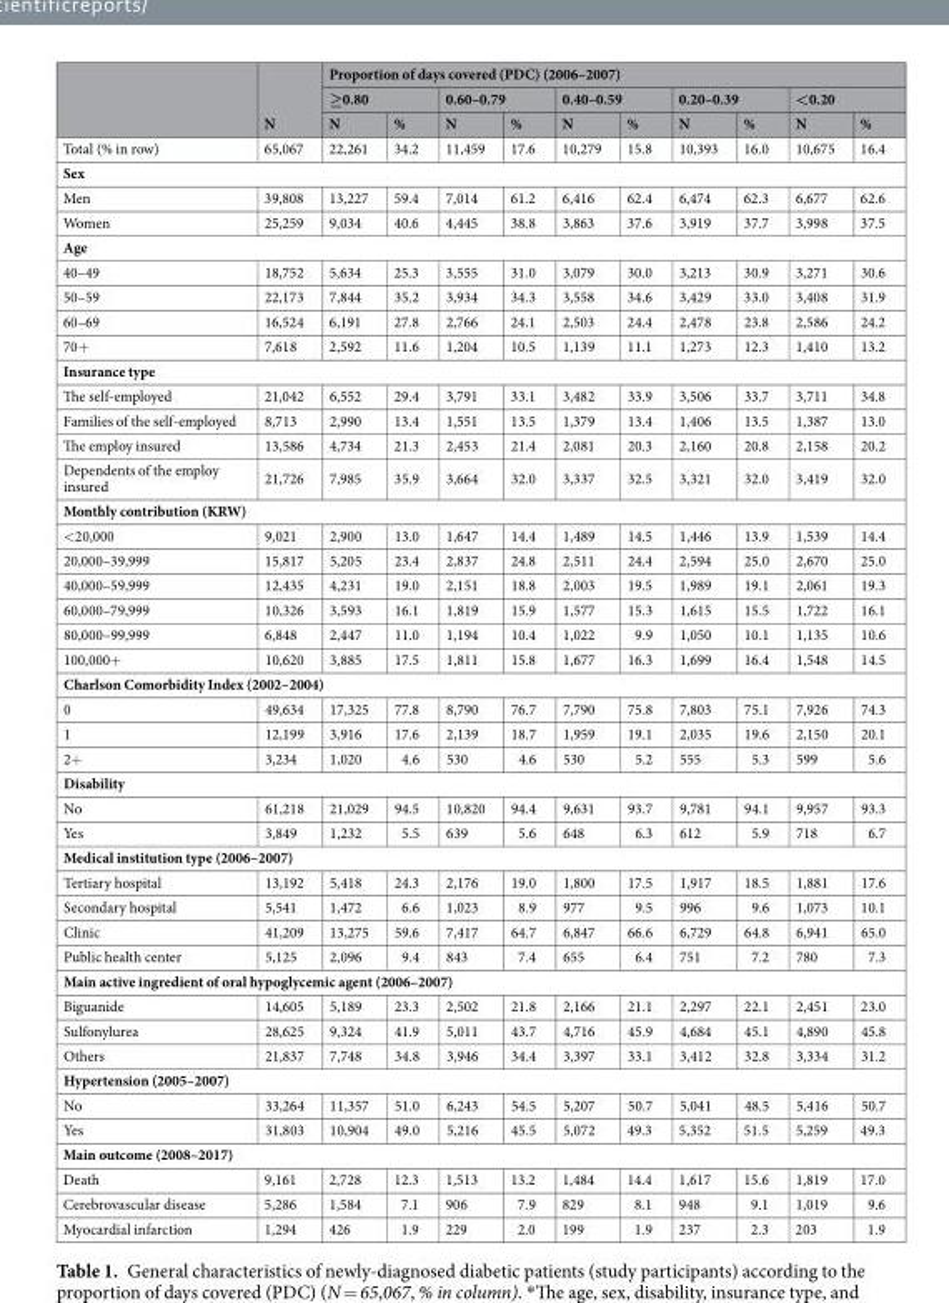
<table><thead><tr><td rowspan="3"></td><td rowspan="3">N</td><td colspan="10">Proportion of days covered (PDC) (2006–2007)</td></tr><tr><td colspan="2">≥0.80</td><td colspan="2">0.60–0.79</td><td colspan="2">0.40–0.59</td><td colspan="2">0.20–0.39</td><td colspan="2">&lt;0.20</td></tr><tr><td>N</td><td>%</td><td>N</td><td>%</td><td>N</td><td>%</td><td>N</td><td>%</td><td>N</td><td>%</td></tr></thead><tbody><tr><td>Total (% in row)</td><td>65,067</td><td>22,261</td><td>34.2</td><td>11,459</td><td>17.6</td><td>10,279</td><td>15.8</td><td>10,393</td><td>16.0</td><td>10,675</td><td>16.4</td></tr><tr><td colspan="12">Sex</td></tr><tr><td>Men</td><td>39,808</td><td>13,227</td><td>59.4</td><td>7,014</td><td>61.2</td><td>6,416</td><td>62.4</td><td>6,474</td><td>62.3</td><td>6,677</td><td>62.6</td></tr><tr><td>Women</td><td>25,259</td><td>9,034</td><td>40.6</td><td>4,445</td><td>38.8</td><td>3,863</td><td>37.6</td><td>3,919</td><td>37.7</td><td>3,998</td><td>37.5</td></tr><tr><td colspan="12">Age</td></tr><tr><td>40–49</td><td>18,752</td><td>5,634</td><td>25.3</td><td>3,555</td><td>31.0</td><td>3,079</td><td>30.0</td><td>3,213</td><td>30.9</td><td>3,271</td><td>30.6</td></tr><tr><td>50–59</td><td>22,173</td><td>7,844</td><td>35.2</td><td>3,934</td><td>34.3</td><td>3,558</td><td>34.6</td><td>3,429</td><td>33.0</td><td>3,408</td><td>31.9</td></tr><tr><td>60–69</td><td>16,524</td><td>6,191</td><td>27.8</td><td>2,766</td><td>24.1</td><td>2,503</td><td>24.4</td><td>2,478</td><td>23.8</td><td>2,586</td><td>24.2</td></tr><tr><td>70+</td><td>7,618</td><td>2,592</td><td>11.6</td><td>1,204</td><td>10.5</td><td>1,139</td><td>11.1</td><td>1,273</td><td>12.3</td><td>1,410</td><td>13.2</td></tr><tr><td colspan="12">Insurance type</td></tr><tr><td>The self-employed</td><td>21,042</td><td>6,552</td><td>29.4</td><td>3,791</td><td>33.1</td><td>3,482</td><td>33.9</td><td>3,506</td><td>33.7</td><td>3,711</td><td>34.8</td></tr><tr><td>Families of the self-employed</td><td>8,713</td><td>2,990</td><td>13.4</td><td>1,551</td><td>13.5</td><td>1,379</td><td>13.4</td><td>1,406</td><td>13.5</td><td>1,387</td><td>13.0</td></tr><tr><td>The employ insured</td><td>13,586</td><td>4,734</td><td>21.3</td><td>2,453</td><td>21.4</td><td>2,081</td><td>20.3</td><td>2,160</td><td>20.8</td><td>2,158</td><td>20.2</td></tr><tr><td>Dependents of the employ insured</td><td>21,726</td><td>7,985</td><td>35.9</td><td>3,664</td><td>32.0</td><td>3,337</td><td>32.5</td><td>3,321</td><td>32.0</td><td>3,419</td><td>32.0</td></tr><tr><td colspan="12">Monthly contribution (KRW)</td></tr><tr><td>&lt;20,000</td><td>9,021</td><td>2,900</td><td>13.0</td><td>1,647</td><td>14.4</td><td>1,489</td><td>14.5</td><td>1,446</td><td>13.9</td><td>1,539</td><td>14.4</td></tr><tr><td>20,000–39,999</td><td>15,817</td><td>5,205</td><td>23.4</td><td>2,837</td><td>24.8</td><td>2,511</td><td>24.4</td><td>2,594</td><td>25.0</td><td>2,670</td><td>25.0</td></tr><tr><td>40,000–59,999</td><td>12,435</td><td>4,231</td><td>19.0</td><td>2,151</td><td>18.8</td><td>2,003</td><td>19.5</td><td>1,989</td><td>19.1</td><td>2,061</td><td>19.3</td></tr><tr><td>60,000–79,999</td><td>10,326</td><td>3,593</td><td>16.1</td><td>1,819</td><td>15.9</td><td>1,577</td><td>15.3</td><td>1,615</td><td>15.5</td><td>1,722</td><td>16.1</td></tr><tr><td>80,000–99,999</td><td>6,848</td><td>2,447</td><td>11.0</td><td>1,194</td><td>10.4</td><td>1,022</td><td>9.9</td><td>1,050</td><td>10.1</td><td>1,135</td><td>10.6</td></tr><tr><td>100,000+</td><td>10,620</td><td>3,885</td><td>17.5</td><td>1,811</td><td>15.8</td><td>1,677</td><td>16.3</td><td>1,699</td><td>16.4</td><td>1,548</td><td>14.5</td></tr><tr><td colspan="12">Charlson Comorbidity Index (2002–2004)</td></tr><tr><td>0</td><td>49,634</td><td>17,325</td><td>77.8</td><td>8,790</td><td>76.7</td><td>7,790</td><td>75.8</td><td>7,803</td><td>75.1</td><td>7,926</td><td>74.3</td></tr><tr><td>1</td><td>12,199</td><td>3,916</td><td>17.6</td><td>2,139</td><td>18.7</td><td>1,959</td><td>19.1</td><td>2,035</td><td>19.6</td><td>2,150</td><td>20.1</td></tr><tr><td>2+</td><td>3,234</td><td>1,020</td><td>4.6</td><td>530</td><td>4.6</td><td>530</td><td>5.2</td><td>555</td><td>5.3</td><td>599</td><td>5.6</td></tr><tr><td colspan="12">Disability</td></tr><tr><td>No</td><td>61,218</td><td>21,029</td><td>94.5</td><td>10,820</td><td>94.4</td><td>9,631</td><td>93.7</td><td>9,781</td><td>94.1</td><td>9,957</td><td>93.3</td></tr><tr><td>Yes</td><td>3,849</td><td>1,232</td><td>5.5</td><td>639</td><td>5.6</td><td>648</td><td>6.3</td><td>612</td><td>5.9</td><td>718</td><td>6.7</td></tr><tr><td colspan="12">Medical institution type (2006–2007)</td></tr><tr><td>Tertiary hospital</td><td>13,192</td><td>5,418</td><td>24.3</td><td>2,176</td><td>19.0</td><td>1,800</td><td>17.5</td><td>1,917</td><td>18.5</td><td>1,881</td><td>17.6</td></tr><tr><td>Secondary hospital</td><td>5,541</td><td>1,472</td><td>6.6</td><td>1,023</td><td>8.9</td><td>977</td><td>9.5</td><td>996</td><td>9.6</td><td>1,073</td><td>10.1</td></tr><tr><td>Clinic</td><td>41,209</td><td>13,275</td><td>59.6</td><td>7,417</td><td>64.7</td><td>6,847</td><td>66.6</td><td>6,729</td><td>64.8</td><td>6,941</td><td>65.0</td></tr><tr><td>Public health center</td><td>5,125</td><td>2,096</td><td>9.4</td><td>843</td><td>7.4</td><td>655</td><td>6.4</td><td>751</td><td>7.2</td><td>780</td><td>7.3</td></tr><tr><td colspan="12">Main active ingredient of oral hypoglycemic agent (2006–2007)</td></tr><tr><td>Biguanide</td><td>14,605</td><td>5,189</td><td>23.3</td><td>2,502</td><td>21.8</td><td>2,166</td><td>21.1</td><td>2,297</td><td>22.1</td><td>2,451</td><td>23.0</td></tr><tr><td>Sulfonylurea</td><td>28,625</td><td>9,324</td><td>41.9</td><td>5,011</td><td>43.7</td><td>4,716</td><td>45.9</td><td>4,684</td><td>45.1</td><td>4,890</td><td>45.8</td></tr><tr><td>Others</td><td>21,837</td><td>7,748</td><td>34.8</td><td>3,946</td><td>34.4</td><td>3,397</td><td>33.1</td><td>3,412</td><td>32.8</td><td>3,334</td><td>31.2</td></tr><tr><td colspan="12">Hypertension (2005–2007)</td></tr><tr><td>No</td><td>33,264</td><td>11,357</td><td>51.0</td><td>6,243</td><td>54.5</td><td>5,207</td><td>50.7</td><td>5,041</td><td>48.5</td><td>5,416</td><td>50.7</td></tr><tr><td>Yes</td><td>31,803</td><td>10,904</td><td>49.0</td><td>5,216</td><td>45.5</td><td>5,072</td><td>49.3</td><td>5,352</td><td>51.5</td><td>5,259</td><td>49.3</td></tr><tr><td colspan="12">Main outcome (2008–2017)</td></tr><tr><td>Death</td><td>9,161</td><td>2,728</td><td>12.3</td><td>1,513</td><td>13.2</td><td>1,484</td><td>14.4</td><td>1,617</td><td>15.6</td><td>1,819</td><td>17.0</td></tr><tr><td>Cerebrovascular disease</td><td>5,286</td><td>1,584</td><td>7.1</td><td>906</td><td>7.9</td><td>829</td><td>8.1</td><td>948</td><td>9.1</td><td>1,019</td><td>9.6</td></tr><tr><td>Myocardial infarction</td><td>1,294</td><td>426</td><td>1.9</td><td>229</td><td>2.0</td><td>199</td><td>1.9</td><td>237</td><td>2.3</td><td>203</td><td>1.9</td></tr></tbody></table>